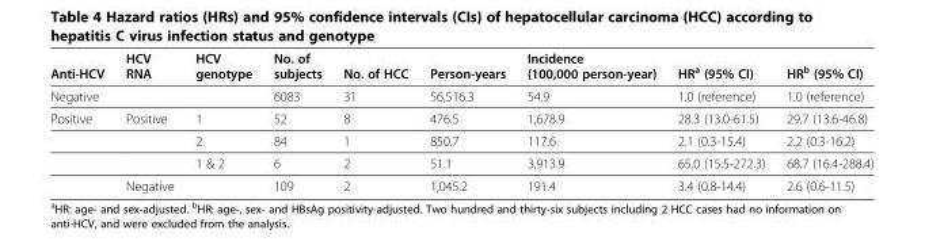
<table><thead><tr><td>Anti-HCV</td><td>HCV RNA</td><td>HCV genotype</td><td>No. of subjects</td><td>No. of HCC</td><td>Person-years</td><td>Incidence (100,000 person-year)</td><td>HR<sup>a</sup> (95% CI)</td><td>HR<sup>b</sup> (95% CI)</td></tr></thead><tbody><tr><td>Negative</td><td></td><td></td><td>6083</td><td>31</td><td>56,516.3</td><td>54.9</td><td>1.0 (reference)</td><td>1.0 (reference)</td></tr><tr><td rowspan="4">Positive</td><td>Positive</td><td>1</td><td>52</td><td>8</td><td>476.5</td><td>1,678.9</td><td>28.3 (13.0-61.5)</td><td>29.7 (13.6-46.8)</td></tr><tr><td></td><td>2</td><td>84</td><td>1</td><td>850.7</td><td>117.6</td><td>2.1 (0.3-15.4)</td><td>2.2 (0.3-16.2)</td></tr><tr><td></td><td>1 &amp; 2</td><td>6</td><td>2</td><td>51.1</td><td>3,913.9</td><td>65.0 (15.5-272.3)</td><td>68.7 (16.4-288.4)</td></tr><tr><td>Negative</td><td></td><td>109</td><td>2</td><td>1,045.2</td><td>191.4</td><td>3.4 (0.8-14.4)</td><td>2.6 (0.6-11.5)</td></tr></tbody></table>